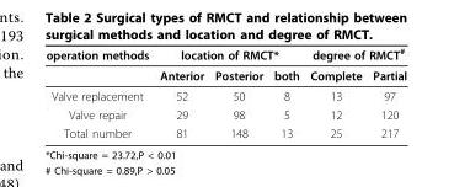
<table><thead><tr><td rowspan="2">operation methods</td><td colspan="3">location of RMCT*</td><td colspan="2">degree of RMCT<sup>#</sup></td></tr><tr><td>Anterior</td><td>Posterior</td><td>both</td><td>Complete</td><td>Partial</td></tr></thead><tbody><tr><td>Valve replacement</td><td>52</td><td>50</td><td>8</td><td>13</td><td>97</td></tr><tr><td>Valve repair</td><td>29</td><td>98</td><td>5</td><td>12</td><td>120</td></tr><tr><td>Total number</td><td>81</td><td>148</td><td>13</td><td>25</td><td>217</td></tr></tbody></table>